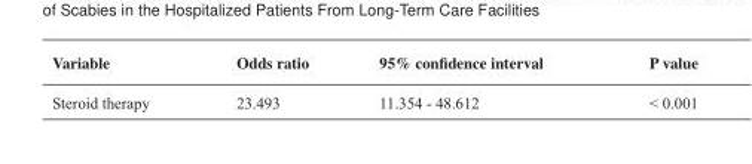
<table><thead><tr><td>Variable</td><td>Odds ratio</td><td>95% confi dence interval</td><td>P value</td></tr></thead><tbody><tr><td>Steroid therapy</td><td>23.493</td><td>11.354 - 48.612</td><td>&lt; 0.001</td></tr></tbody></table>